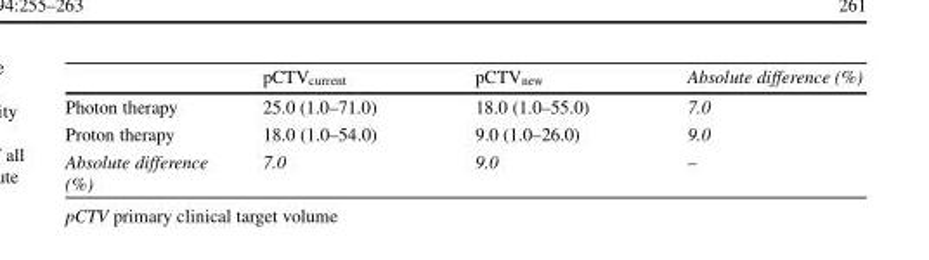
<table><thead><tr><td></td><td>pCTV<sub>current</sub></td><td>pCTV<sub>new</sub></td><td>Absolute difference (%)</td></tr></thead><tbody><tr><td>Photon therapy</td><td>25.0 (1.0–71.0)</td><td>18.0 (1.0–55.0)</td><td>7.0</td></tr><tr><td>Proton therapy</td><td>18.0 (1.0–54.0)</td><td>9.0 (1.0–26.0)</td><td>9.0</td></tr><tr><td>Absolute difference (%)</td><td>7.0</td><td>9.0</td><td>–</td></tr></tbody></table>